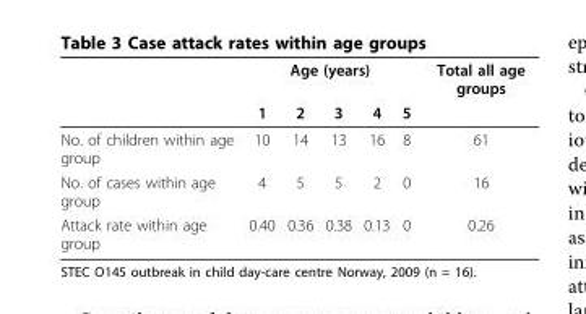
<table><thead><tr><td rowspan="2"></td><td colspan="5">Age (years)</td><td rowspan="2">Total all age groups</td></tr><tr><td>1</td><td>2</td><td>3</td><td>4</td><td>5</td></tr></thead><tbody><tr><td>No. of children within age group</td><td>10</td><td>14</td><td>13</td><td>16</td><td>8</td><td>61</td></tr><tr><td>No. of cases within age group</td><td>4</td><td>5</td><td>5</td><td>2</td><td>0</td><td>16</td></tr><tr><td>Attack rate within age group</td><td>0.40</td><td>0.36</td><td>0.38</td><td>0.13</td><td>0</td><td>0.26</td></tr></tbody></table>